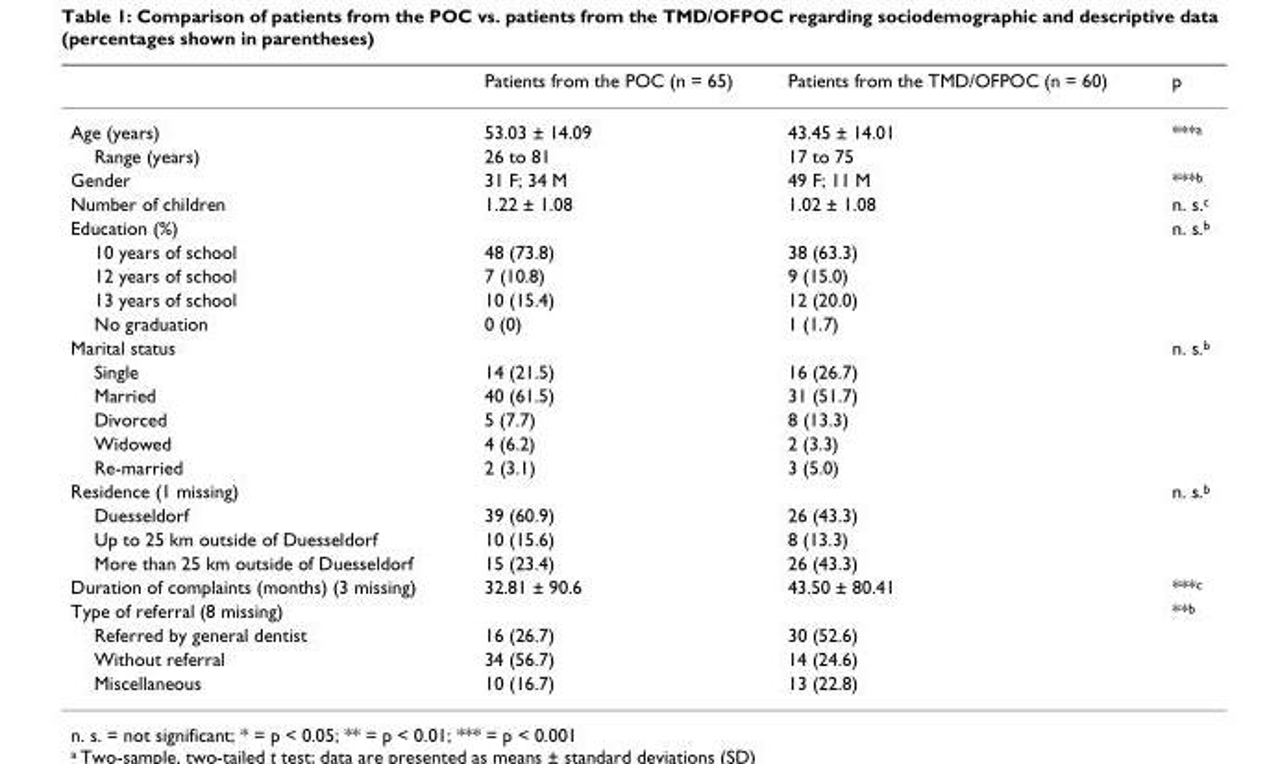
<table><thead><tr><td></td><td>Patients from the POC (n = 65)</td><td>Patients from the TMD/OFPOC (n = 60)</td><td>p</td></tr></thead><tbody><tr><td>Age (years)</td><td>53.03 ± 14.09</td><td>43.45 ± 14.01</td><td>***<sup>a</sup></td></tr><tr><td>Range (years)</td><td>26 to 81</td><td>17 to 75</td><td></td></tr><tr><td>Gender</td><td>31 F; 34 M</td><td>49 F; 11 M</td><td>***<sup>b</sup></td></tr><tr><td>Number of children</td><td>1.22 ± 1.08</td><td>1.02 ± 1.08</td><td>n. s.<sup>c</sup></td></tr><tr><td>Education (%)</td><td></td><td></td><td>n. s.<sup>b</sup></td></tr><tr><td>10 years of school</td><td>48 (73.8)</td><td>38 (63.3)</td><td></td></tr><tr><td>12 years of school</td><td>7 (10.8)</td><td>9 (15.0)</td><td></td></tr><tr><td>13 years of school</td><td>10 (15.4)</td><td>12 (20.0)</td><td></td></tr><tr><td>No graduation</td><td>0 (0)</td><td>1 (1.7)</td><td></td></tr><tr><td>Marital status</td><td></td><td></td><td>n. s.<sup>b</sup></td></tr><tr><td>Single</td><td>14 (21.5)</td><td>16 (26.7)</td><td></td></tr><tr><td>Married</td><td>40 (61.5)</td><td>31 (51.7)</td><td></td></tr><tr><td>Divorced</td><td>5 (7.7)</td><td>8 (13.3)</td><td></td></tr><tr><td>Widowed</td><td>4 (6.2)</td><td>2 (3.3)</td><td></td></tr><tr><td>Re-married</td><td>2 (3.1)</td><td>3 (5.0)</td><td></td></tr><tr><td>Residence (1 missing)</td><td></td><td></td><td>n. s.<sup>b</sup></td></tr><tr><td>Duesseldorf</td><td>39 (60.9)</td><td>26 (43.3)</td><td></td></tr><tr><td>Up to 25 km outside of Duesseldorf</td><td>10 (15.6)</td><td>8 (13.3)</td><td></td></tr><tr><td>More than 25 km outside of Duesseldorf</td><td>15 (23.4)</td><td>26 (43.3)</td><td></td></tr><tr><td>Duration of complaints (months) (3 missing)</td><td>32.81 ± 90.6</td><td>43.50 ± 80.41</td><td>***<sup>c</sup></td></tr><tr><td>Type of referral (8 missing)</td><td></td><td></td><td>**<sup>b</sup></td></tr><tr><td>Referred by general dentist</td><td>16 (26.7)</td><td>30 (52.6)</td><td></td></tr><tr><td>Without referral</td><td>34 (56.7)</td><td>14 (24.6)</td><td></td></tr><tr><td>Miscellaneous</td><td>10 (16.7)</td><td>13 (22.8)</td><td></td></tr></tbody></table>